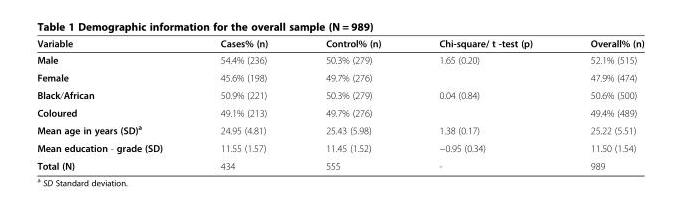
<table><thead><tr><td>Variable</td><td>Cases% (n)</td><td>Control% (n)</td><td>Chi-square/ t -test (p)</td><td>Overall% (n)</td></tr></thead><tbody><tr><td>Male</td><td>54.4% (236)</td><td>50.3% (279)</td><td rowspan="2">1.65 (0.20)</td><td>52.1% (515)</td></tr><tr><td>Female</td><td>45.6% (198)</td><td>49.7% (276)</td><td>47.9% (474)</td></tr><tr><td>Black/African</td><td>50.9% (221)</td><td>50.3% (279)</td><td rowspan="2">0.04 (0.84)</td><td>50.6% (500)</td></tr><tr><td>Coloured</td><td>49.1% (213)</td><td>49.7% (276)</td><td>49.4% (489)</td></tr><tr><td>Mean age in years (SD)<sup>a</sup></td><td>24.95 (4.81)</td><td>25.43 (5.98)</td><td>1.38 (0.17)</td><td>25.22 (5.51)</td></tr><tr><td>Mean education - grade (SD)</td><td>11.55 (1.57)</td><td>11.45 (1.52)</td><td>−0.95 (0.34)</td><td>11.50 (1.54)</td></tr><tr><td>Total (N)</td><td>434</td><td>555</td><td>-</td><td>989</td></tr></tbody></table>